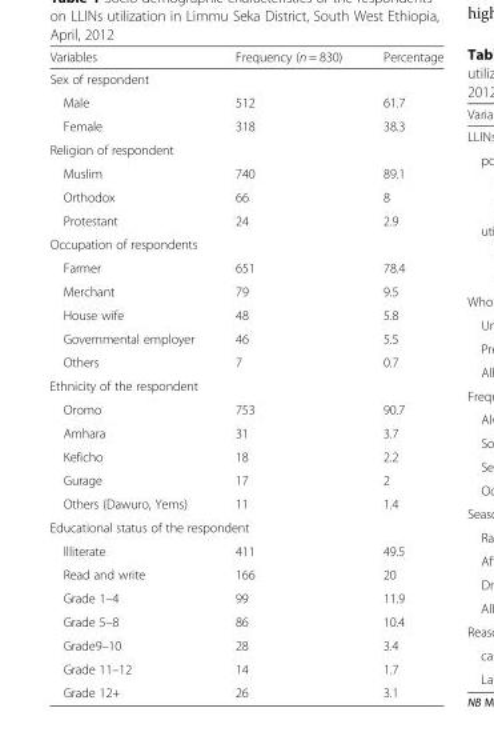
<table><thead><tr><td>Variables</td><td>Frequency (n = 830)</td><td>Percentage</td></tr></thead><tbody><tr><td colspan="3">Sex of respondent</td></tr><tr><td>Male</td><td>512</td><td>61.7</td></tr><tr><td>Female</td><td>318</td><td>38.3</td></tr><tr><td colspan="3">Religion of respondent</td></tr><tr><td>Muslim</td><td>740</td><td>89.1</td></tr><tr><td>Orthodox</td><td>66</td><td>8</td></tr><tr><td>Protestant</td><td>24</td><td>2.9</td></tr><tr><td colspan="3">Occupation of respondents</td></tr><tr><td>Farmer</td><td>651</td><td>78.4</td></tr><tr><td>Merchant</td><td>79</td><td>9.5</td></tr><tr><td>House wife</td><td>48</td><td>5.8</td></tr><tr><td>Governmental employer</td><td>46</td><td>5.5</td></tr><tr><td>Others</td><td>7</td><td>0.7</td></tr><tr><td colspan="3">Ethnicity of the respondent</td></tr><tr><td>Oromo</td><td>753</td><td>90.7</td></tr><tr><td>Amhara</td><td>31</td><td>3.7</td></tr><tr><td>Keficho</td><td>18</td><td>2.2</td></tr><tr><td>Gurage</td><td>17</td><td>2</td></tr><tr><td>Others (Dawuro, Yems)</td><td>11</td><td>1.4</td></tr><tr><td colspan="3">Educational status of the respondent</td></tr><tr><td>Illiterate</td><td>411</td><td>49.5</td></tr><tr><td>Read and write</td><td>166</td><td>20</td></tr><tr><td>Grade 1–4</td><td>99</td><td>11.9</td></tr><tr><td>Grade 5–8</td><td>86</td><td>10.4</td></tr><tr><td>Grade9–10</td><td>28</td><td>3.4</td></tr><tr><td>Grade 11–12</td><td>14</td><td>1.7</td></tr><tr><td>Grade 12+</td><td>26</td><td>3.1</td></tr></tbody></table>